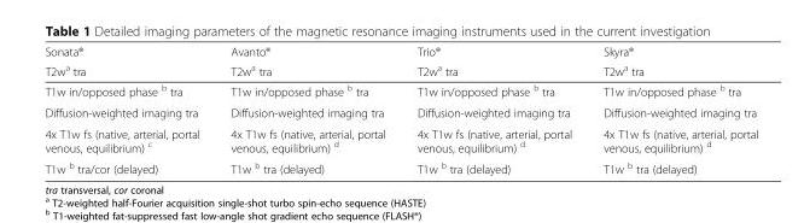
<table><thead><tr><td rowspan="2">Sonata® T2w<sup>a</sup> tra</td><td rowspan="2">Avanto® T2w<sup>a</sup> tra</td><td rowspan="2">Trio® T2w<sup>a</sup> tra</td><td rowspan="2">Skyra® T2w<sup>a</sup> tra</td></tr><tr></tr></thead><tbody><tr><td>T1w in/opposed phase <sup>b</sup> tra</td><td>T1w in/opposed phase <sup>b</sup> tra</td><td>T1w in/opposed phase <sup>b</sup> tra</td><td>T1w in/opposed phase <sup>b</sup> tra</td></tr><tr><td>Diffusion-weighted imaging tra</td><td>Diffusion-weighted imaging tra</td><td>Diffusion-weighted imaging tra</td><td>Diffusion-weighted imaging tra</td></tr><tr><td>4x T1w fs (native, arterial, portal venous, equilibrium) <sup>c</sup></td><td>4x T1w fs (native, arterial, portal venous, equilibrium) <sup>d</sup></td><td>4x T1w fs (native, arterial, portal venous, equilibrium) <sup>d</sup></td><td>4x T1w fs (native, arterial, portal venous, equilibrium) <sup>d</sup></td></tr><tr><td>T1w <sup>b</sup> tra/cor (delayed)</td><td>T1w <sup>b</sup> tra (delayed)</td><td>T1w <sup>b</sup> tra (delayed)</td><td>T1w <sup>b</sup> tra (delayed)</td></tr></tbody></table>